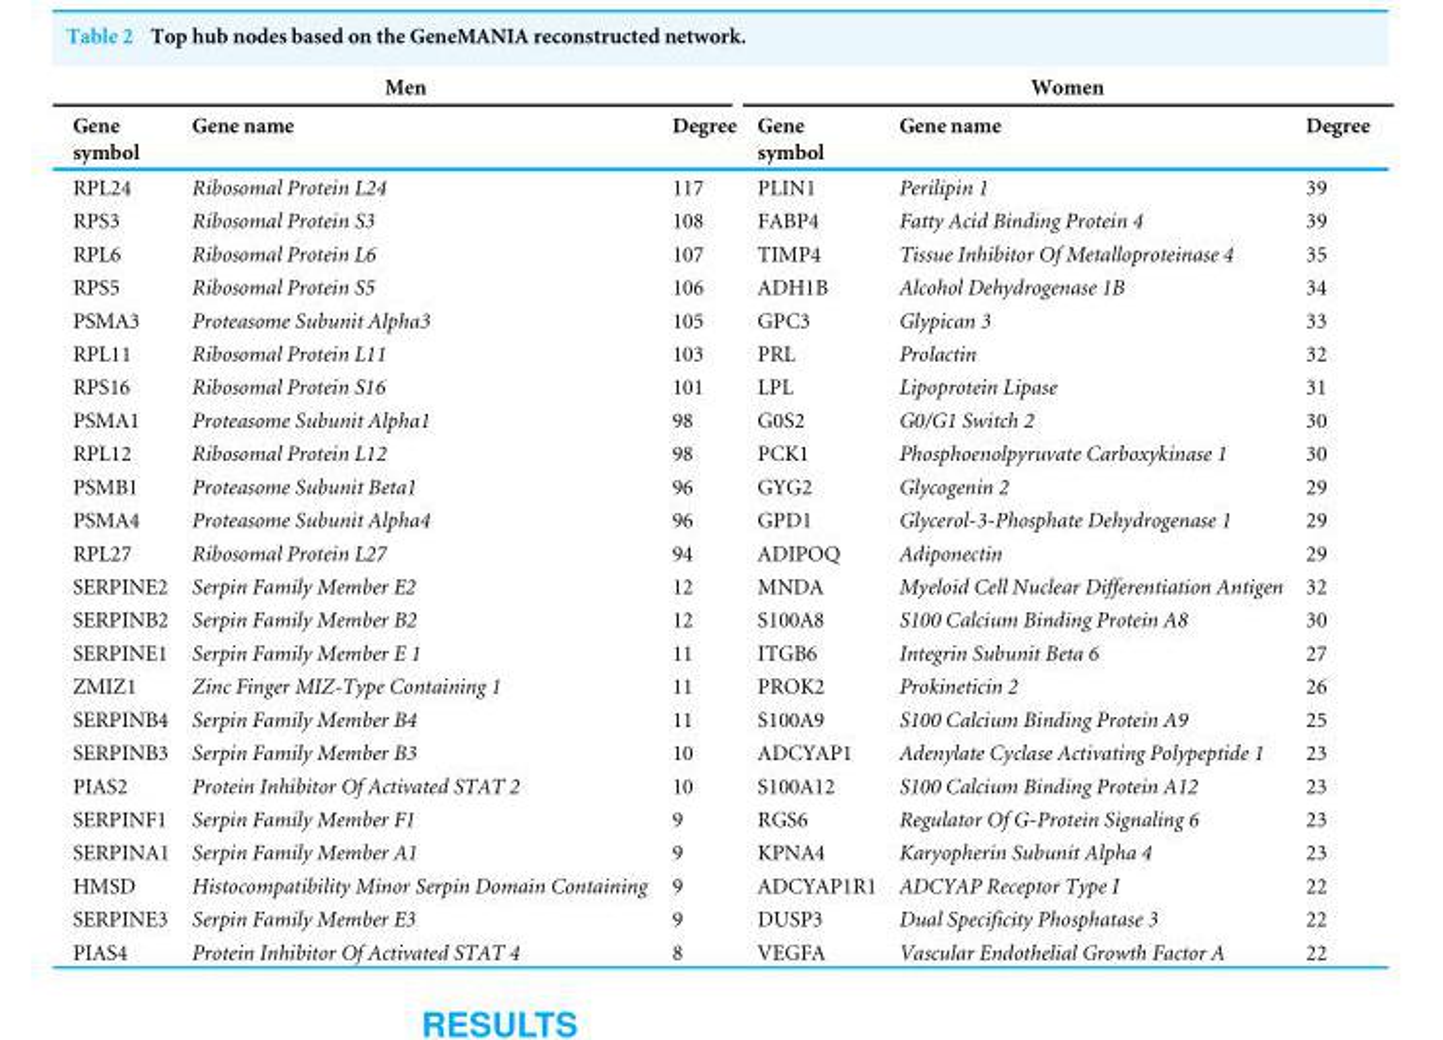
<table><thead><tr><td colspan="3">Men</td><td colspan="3">Women</td></tr><tr><td>Gene symbol</td><td>Gene name</td><td>Degree</td><td>Gene symbol</td><td>Gene name</td><td>Degree</td></tr></thead><tbody><tr><td>RPL24</td><td>Ribosomal Protein L24</td><td>117</td><td>PLIN1</td><td>Perilipin 1</td><td>39</td></tr><tr><td>RPS3</td><td>Ribosomal Protein S3</td><td>108</td><td>FABP4</td><td>Fatty Acid Binding Protein 4</td><td>39</td></tr><tr><td>RPL6</td><td>Ribosomal Protein L6</td><td>107</td><td>TIMP4</td><td>Tissue Inhibitor Of Metalloproteinase 4</td><td>35</td></tr><tr><td>RPS5</td><td>Ribosomal Protein S5</td><td>106</td><td>ADH1B</td><td>Alcohol Dehydrogenase 1B</td><td>34</td></tr><tr><td>PSMA3</td><td>Proteasome Subunit Alpha3</td><td>105</td><td>GPC3</td><td>Glypican 3</td><td>33</td></tr><tr><td>RPL11</td><td>Ribosomal Protein L11</td><td>103</td><td>PRL</td><td>Prolactin</td><td>32</td></tr><tr><td>RPS16</td><td>Ribosomal Protein S16</td><td>101</td><td>LPL</td><td>Lipoprotein Lipase</td><td>31</td></tr><tr><td>PSMA1</td><td>Proteasome Subunit Alpha1</td><td>98</td><td>G0S2</td><td>G0/G1 Switch 2</td><td>30</td></tr><tr><td>RPL12</td><td>Ribosomal Protein L12</td><td>98</td><td>PCK1</td><td>Phosphoenolpyruvate Carboxykinase 1</td><td>30</td></tr><tr><td>PSMB1</td><td>Proteasome Subunit Beta1</td><td>96</td><td>GYG2</td><td>Glycogenin 2</td><td>29</td></tr><tr><td>PSMA4</td><td>Proteasome Subunit Alpha4</td><td>96</td><td>GPD1</td><td>Glycerol-3-Phosphate Dehydrogenase 1</td><td>29</td></tr><tr><td>RPL27</td><td>Ribosomal Protein L27</td><td>94</td><td>ADIPOQ</td><td>Adiponectin</td><td>29</td></tr><tr><td>SERPINE2</td><td>Serpin Family Member E2</td><td>12</td><td>MNDA</td><td>Myeloid Cell Nuclear Differentiation Antigen</td><td>32</td></tr><tr><td>SERPINB2</td><td>Serpin Family Member B2</td><td>12</td><td>S100A8</td><td>S100 Calcium Binding Protein A8</td><td>30</td></tr><tr><td>SERPINE1</td><td>Serpin Family Member E 1</td><td>11</td><td>ITGB6</td><td>Integrin Subunit Beta 6</td><td>27</td></tr><tr><td>ZMIZ1</td><td>Zinc Finger MIZ-Type Containing 1</td><td>11</td><td>PROK2</td><td>Prokineticin 2</td><td>26</td></tr><tr><td>SERPINB4</td><td>Serpin Family Member B4</td><td>11</td><td>S100A9</td><td>S100 Calcium Binding Protein A9</td><td>25</td></tr><tr><td>SERPINB3</td><td>Serpin Family Member B3</td><td>10</td><td>ADCYAP1</td><td>Adenylate Cyclase Activating Polypeptide 1</td><td>23</td></tr><tr><td>PIAS2</td><td>Protein Inhibitor Of Activated STAT 2</td><td>10</td><td>S100A12</td><td>S100 Calcium Binding Protein A12</td><td>23</td></tr><tr><td>SERPINF1</td><td>Serpin Family Member F1</td><td>9</td><td>RGS6</td><td>Regulator Of G-Protein Signaling 6</td><td>23</td></tr><tr><td>SERPINA1</td><td>Serpin Family Member A1</td><td>9</td><td>KPNA4</td><td>Karyopherin Subunit Alpha 4</td><td>23</td></tr><tr><td>HMSD</td><td>Histocompatibility Minor Serpin Domain Containing</td><td>9</td><td>ADCYAP1R1</td><td>ADCYAP Receptor Type I</td><td>22</td></tr><tr><td>SERPINE3</td><td>Serpin Family Member E3</td><td>9</td><td>DUSP3</td><td>Dual Specificity Phosphatase 3</td><td>22</td></tr><tr><td>PIAS4</td><td>Protein Inhibitor Of Activated STAT 4</td><td>8</td><td>VEGFA</td><td>Vascular Endothelial Growth Factor A</td><td>22</td></tr></tbody></table>